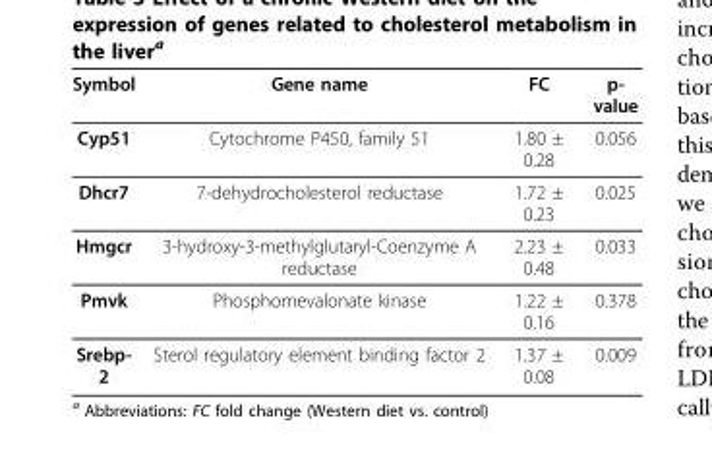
<table><thead><tr><td>Symbol</td><td>Gene name</td><td>FC</td><td>p- value</td></tr></thead><tbody><tr><td>Cyp51</td><td>Cytochrome P450, family 51</td><td>1.80 ± 0.28</td><td>0.056</td></tr><tr><td>Dhcr7</td><td>7-dehydrocholesterol reductase</td><td>1.72 ± 0.23</td><td>0.025</td></tr><tr><td>Hmgcr</td><td>3-hydroxy-3-methylglutaryl-Coenzyme A reductase</td><td>2.23 ± 0.48</td><td>0.033</td></tr><tr><td>Pmvk</td><td>Phosphomevalonate kinase</td><td>1.22 ± 0.16</td><td>0.378</td></tr><tr><td>Srebp- 2</td><td>Sterol regulatory element binding factor 2</td><td>1.37 ± 0.08</td><td>0.009</td></tr></tbody></table>